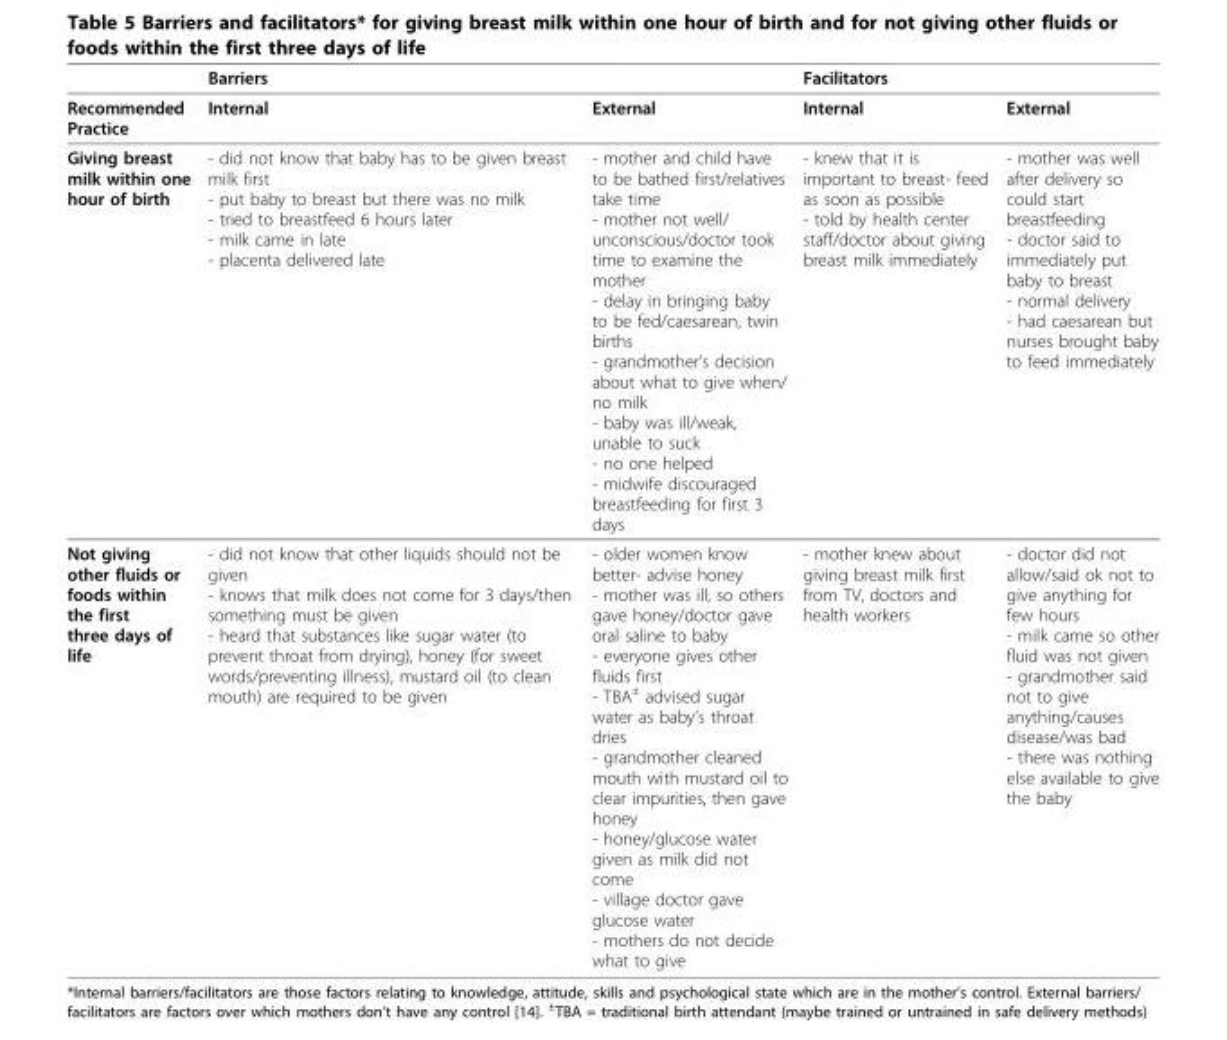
<table><thead><tr><td rowspan="2">Recommended Practice</td><td colspan="2">Barriers</td><td colspan="2">Facilitators</td></tr><tr><td>Internal</td><td>External</td><td>Internal</td><td>External</td></tr></thead><tbody><tr><td>Giving breast milk within one hour of birth</td><td>- did not know that baby has to be given breast milk first - put baby to breast but there was no milk - tried to breastfeed 6 hours later - milk came in late - placenta delivered late</td><td>- mother and child have to be bathed first/relatives take time - mother not well/ unconscious/doctor took time to examine the mother - delay in bringing baby to be fed/caesarean, twin births - grandmother’s decision about what to give when/ no milk - baby was ill/weak, unable to suck - no one helped - midwife discouraged breastfeeding for first 3 days</td><td>- knew that it is important to breast- feed as soon as possible - told by health center staff/doctor about giving breast milk immediately</td><td>- mother was well after delivery so could start breastfeeding - doctor said to immediately put baby to breast - normal delivery - had caesarean but nurses brought baby to feed immediately</td></tr><tr><td>Not giving other fluids or foods within the first three days of life</td><td>- did not know that other liquids should not be given - knows that milk does not come for 3 days/then something must be given - heard that substances like sugar water (to prevent throat from drying), honey (for sweet words/preventing illness), mustard oil (to clean mouth) are required to be given</td><td>- older women know better- advise honey - mother was ill, so others gave honey/doctor gave oral saline to baby - everyone gives other fluids first - TBA<sup>±</sup> advised sugar water as baby’s throat dries - grandmother cleaned mouth with mustard oil to clear impurities, then gave honey - honey/glucose water given as milk did not come - village doctor gave glucose water - mothers do not decide what to give</td><td>- mother knew about giving breast milk first from TV, doctors and health workers</td><td>- doctor did not allow/said ok not to give anything for few hours - milk came so other fluid was not given - grandmother said not to give anything/causes disease/was bad - there was nothing else available to give the baby</td></tr></tbody></table>